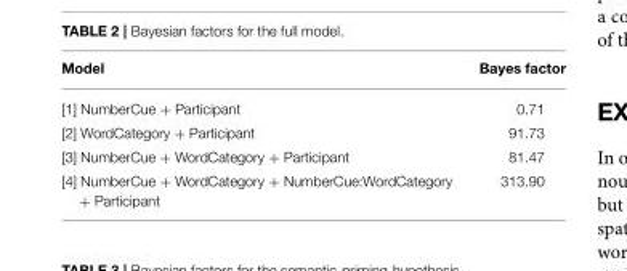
<table><thead><tr><td>Model</td><td>Bayes factor</td></tr></thead><tbody><tr><td>[1] NumberCue + Participant</td><td>0.71</td></tr><tr><td>[2] WordCategory + Participant</td><td>91.73</td></tr><tr><td>[3] NumberCue + WordCategory + Participant</td><td>81.47</td></tr><tr><td>[4] NumberCue + WordCategory + NumberCue:WordCategory + Participant</td><td>313.90</td></tr></tbody></table>